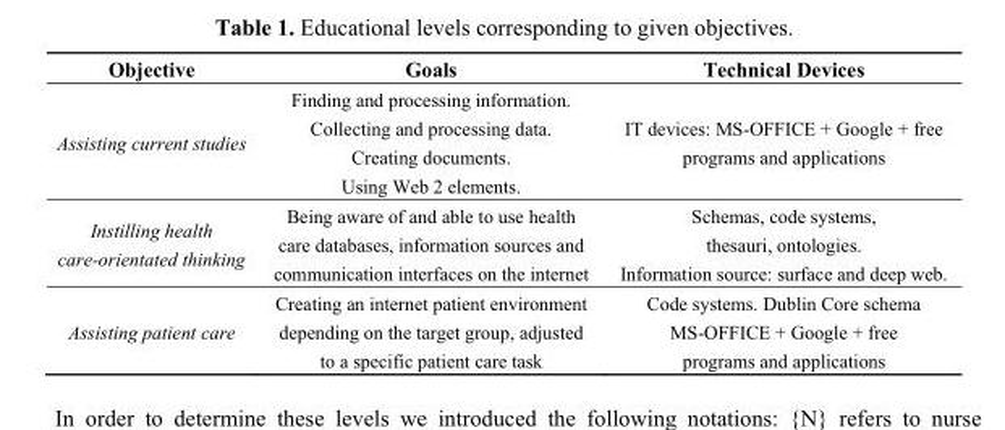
<table><thead><tr><td>Objective</td><td>Goals</td><td>Technical Devices</td></tr></thead><tbody><tr><td>Assisting current studies</td><td>Finding and processing information. Collecting and processing data. Creating documents. Using Web 2 elements.</td><td>IT devices: MS-OFFICE + Google + free programs and applications</td></tr><tr><td>Instilling health care-orientated thinking</td><td>Being aware of and able to use health care databases, information sources and communication interfaces on the internet</td><td>Schemas, code systems, thesauri, ontologies. Information source: surface and deep web.</td></tr><tr><td>Assisting patient care</td><td>Creating an internet patient environment depending on the target group, adjusted to a specific patient care task</td><td>Code systems. Dublin Core schema MS-OFFICE + Google + free programs and applications</td></tr></tbody></table>